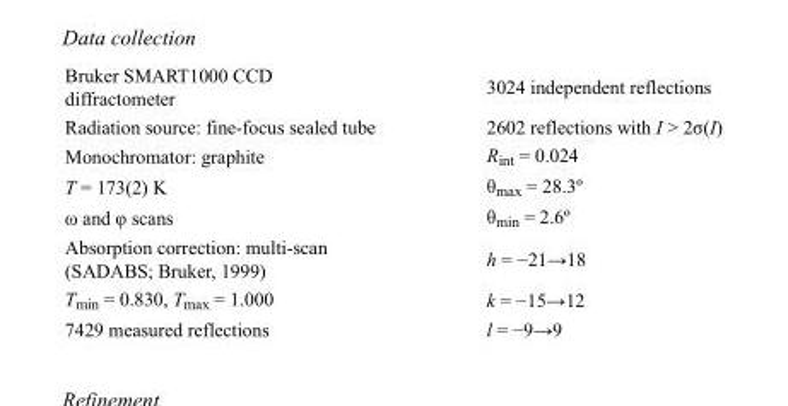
<table><tbody><tr><td>Bruker SMART1000 CCD diffractometer</td><td>3024 independent reflections</td></tr><tr><td>Radiation source: fine-focus sealed tube</td><td>2602 reflections with I &gt; 2σ(I)</td></tr><tr><td>Monochromator: graphite</td><td>R<sub>int</sub> = 0.024</td></tr><tr><td>T = 173(2) K</td><td>θ<sub>max</sub> = 28.3º</td></tr><tr><td>ω and φ scans</td><td>θ<sub>min</sub> = 2.6º</td></tr><tr><td>Absorption correction: multi-scan (SADABS; Bruker, 1999)</td><td>h = −21→18</td></tr><tr><td>T<sub>min</sub> = 0.830, T<sub>max</sub> = 1.000</td><td>k = −15→12</td></tr><tr><td>7429 measured reflections</td><td>l = −9→9</td></tr></tbody></table>